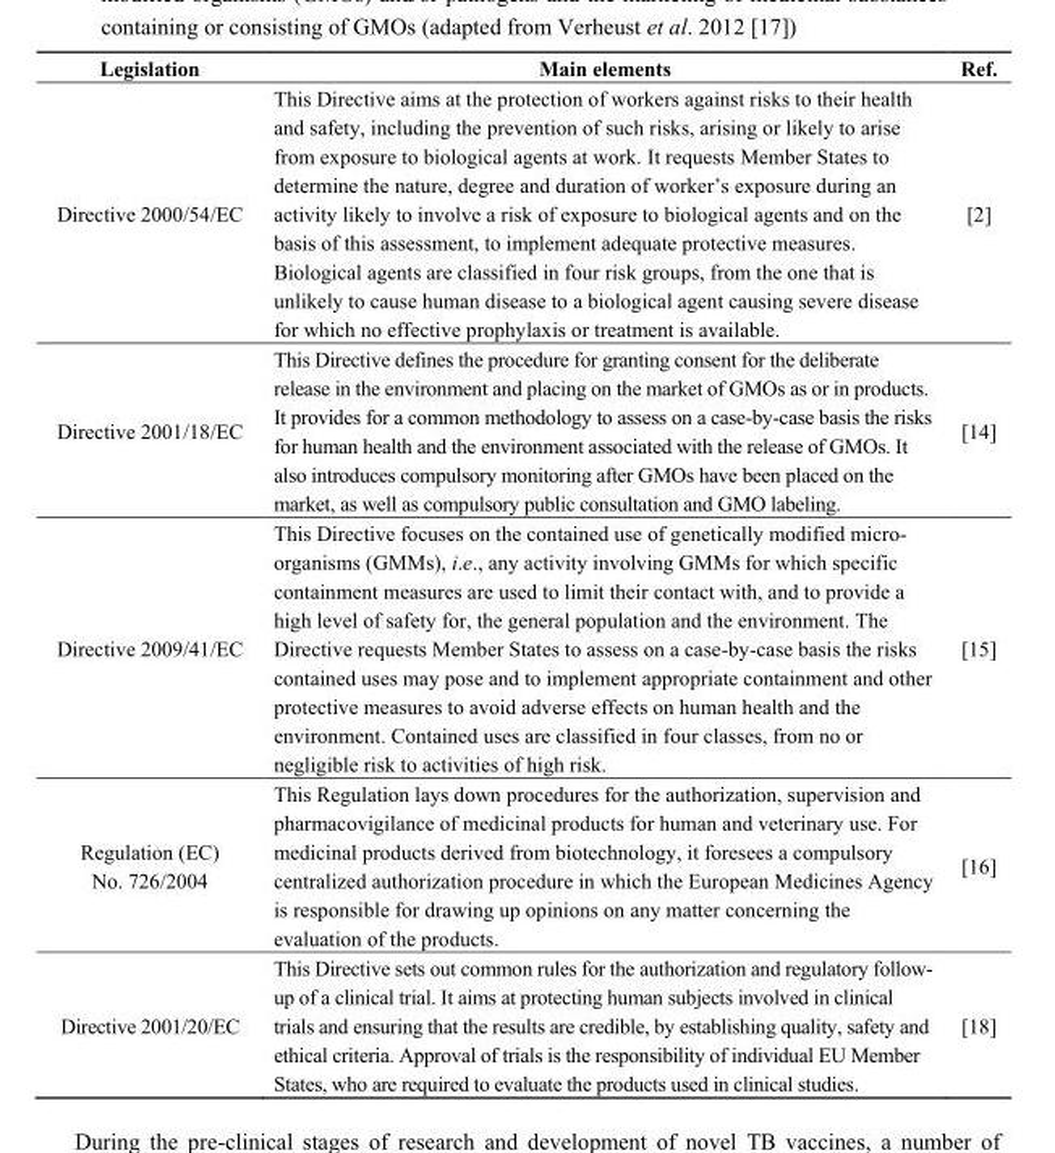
<table><thead><tr><td>Legislation</td><td>Main elements</td><td>Ref.</td></tr></thead><tbody><tr><td>Directive 2000/54/EC</td><td>This Directive aims at the protection of workers against risks to their health and safety, including the prevention of such risks, arising or likely to arise from exposure to biological agents at work. It requests Member States to determine the nature, degree and duration of worker’s exposure during an activity likely to involve a risk of exposure to biological agents and on the basis of this assessment, to implement adequate protective measures. Biological agents are classified in four risk groups, from the one that is unlikely to cause human disease to a biological agent causing severe disease for which no effective prophylaxis or treatment is available.</td><td>[2]</td></tr><tr><td>Directive 2001/18/EC</td><td>This Directive defines the procedure for granting consent for the deliberate release in the environment and placing on the market of GMOs as or in products. It provides for a common methodology to assess on a case-by-case basis the risks for human health and the environment associated with the release of GMOs. It also introduces compulsory monitoring after GMOs have been placed on the market, as well as compulsory public consultation and GMO labeling.</td><td>[14]</td></tr><tr><td>Directive 2009/41/EC</td><td>This Directive focuses on the contained use of genetically modified micro- organisms (GMMs), i.e., any activity involving GMMs for which specific containment measures are used to limit their contact with, and to provide a high level of safety for, the general population and the environment. The Directive requests Member States to assess on a case-by-case basis the risks contained uses may pose and to implement appropriate containment and other protective measures to avoid adverse effects on human health and the environment. Contained uses are classified in four classes, from no or negligible risk to activities of high risk.</td><td>[15]</td></tr><tr><td>Regulation (EC) No. 726/2004</td><td>This Regulation lays down procedures for the authorization, supervision and pharmacovigilance of medicinal products for human and veterinary use. For medicinal products derived from biotechnology, it foresees a compulsory centralized authorization procedure in which the European Medicines Agency is responsible for drawing up opinions on any matter concerning the evaluation of the products.</td><td>[16]</td></tr><tr><td>Directive 2001/20/EC</td><td>This Directive sets out common rules for the authorization and regulatory follow- up of a clinical trial. It aims at protecting human subjects involved in clinical trials and ensuring that the results are credible, by establishing quality, safety and ethical criteria. Approval of trials is the responsibility of individual EU Member States, who are required to evaluate the products used in clinical studies.</td><td>[18]</td></tr></tbody></table>